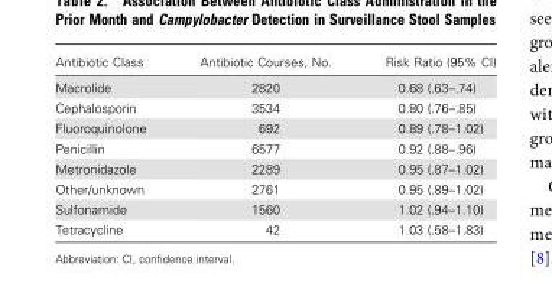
<table><thead><tr><td>Antibiotic Class</td><td>Antibiotic Courses, No.</td><td>Risk Ratio (95% CI)</td></tr></thead><tbody><tr><td>Macrolide</td><td>2820</td><td>0.68 (.63–.74)</td></tr><tr><td>Cephalosporin</td><td>3534</td><td>0.80 (.76–.85)</td></tr><tr><td>Fluoroquinolone</td><td>692</td><td>0.89 (.78–1.02)</td></tr><tr><td>Penicillin</td><td>6577</td><td>0.92 (.88–.96)</td></tr><tr><td>Metronidazole</td><td>2289</td><td>0.95 (.87–1.02)</td></tr><tr><td>Other/unknown</td><td>2761</td><td>0.95 (.89–1.02)</td></tr><tr><td>Sulfonamide</td><td>1560</td><td>1.02 (.94–1.10)</td></tr><tr><td>Tetracycline</td><td>42</td><td>1.03 (.58–1.83)</td></tr></tbody></table>